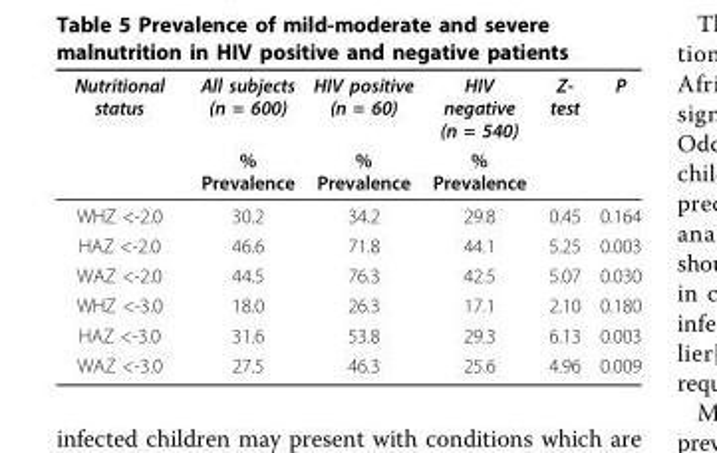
<table><thead><tr><td rowspan="2">Nutritional status</td><td rowspan="2">All subjects (n = 600) % Prevalence</td><td rowspan="2">HIV positive (n = 60) % Prevalence</td><td rowspan="2">HIV negative (n = 540) % Prevalence</td><td rowspan="2">Z- test</td><td rowspan="2">P</td></tr><tr></tr></thead><tbody><tr><td>WHZ &lt;-2.0</td><td>30.2</td><td>34.2</td><td>29.8</td><td>0.45</td><td>0.164</td></tr><tr><td>HAZ &lt;-2.0</td><td>46.6</td><td>71.8</td><td>44.1</td><td>5.25</td><td>0.003</td></tr><tr><td>WAZ &lt;-2.0</td><td>44.5</td><td>76.3</td><td>42.5</td><td>5.07</td><td>0.030</td></tr><tr><td>WHZ &lt;-3.0</td><td>18.0</td><td>26.3</td><td>17.1</td><td>2.10</td><td>0.180</td></tr><tr><td>HAZ &lt;-3.0</td><td>31.6</td><td>53.8</td><td>29.3</td><td>6.13</td><td>0.003</td></tr><tr><td>WAZ &lt;-3.0</td><td>27.5</td><td>46.3</td><td>25.6</td><td>4.96</td><td>0.009</td></tr></tbody></table>